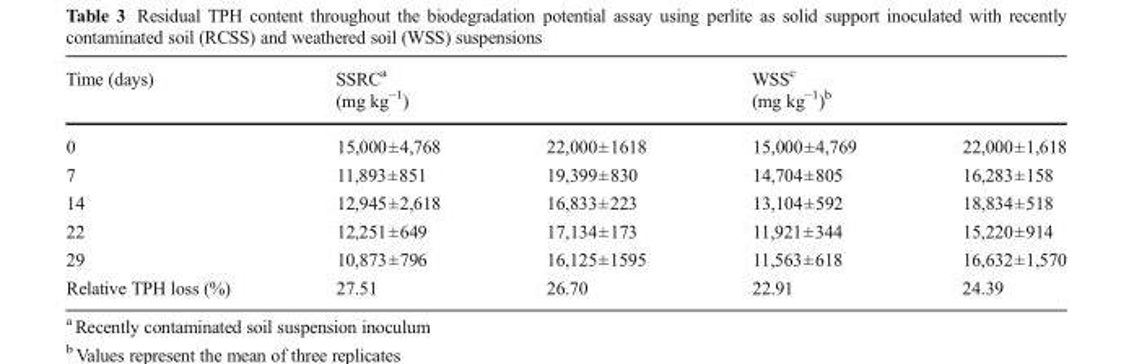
<table><thead><tr><td rowspan="2">Time (days) 0</td><td colspan="2">SSRC<sup>a</sup> (mg kg<sup>−1</sup>)</td><td colspan="2">WSS<sup>c</sup> (mg kg<sup>−1</sup>)<sup>b</sup></td></tr><tr><td>15,000±4,768</td><td>22,000±1618</td><td>15,000±4,769</td><td>22,000±1,618</td></tr></thead><tbody><tr><td>7</td><td>11,893±851</td><td>19,399±830</td><td>14,704±805</td><td>16,283±158</td></tr><tr><td>14</td><td>12,945±2,618</td><td>16,833±223</td><td>13,104±592</td><td>18,834±518</td></tr><tr><td>22</td><td>12,251±649</td><td>17,134±173</td><td>11,921±344</td><td>15,220±914</td></tr><tr><td>29</td><td>10,873±796</td><td>16,125±1595</td><td>11,563±618</td><td>16,632±1,570</td></tr><tr><td>Relative TPH loss (%)</td><td>27.51</td><td>26.70</td><td>22.91</td><td>24.39</td></tr></tbody></table>